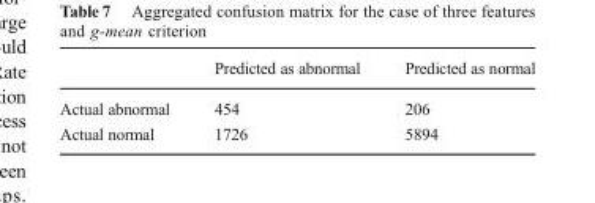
<table><thead><tr><td></td><td>Predicted as abnormal</td><td>Predicted as normal</td></tr></thead><tbody><tr><td>Actual abnormal</td><td>454</td><td>206</td></tr><tr><td>Actual normal</td><td>1726</td><td>5894</td></tr></tbody></table>